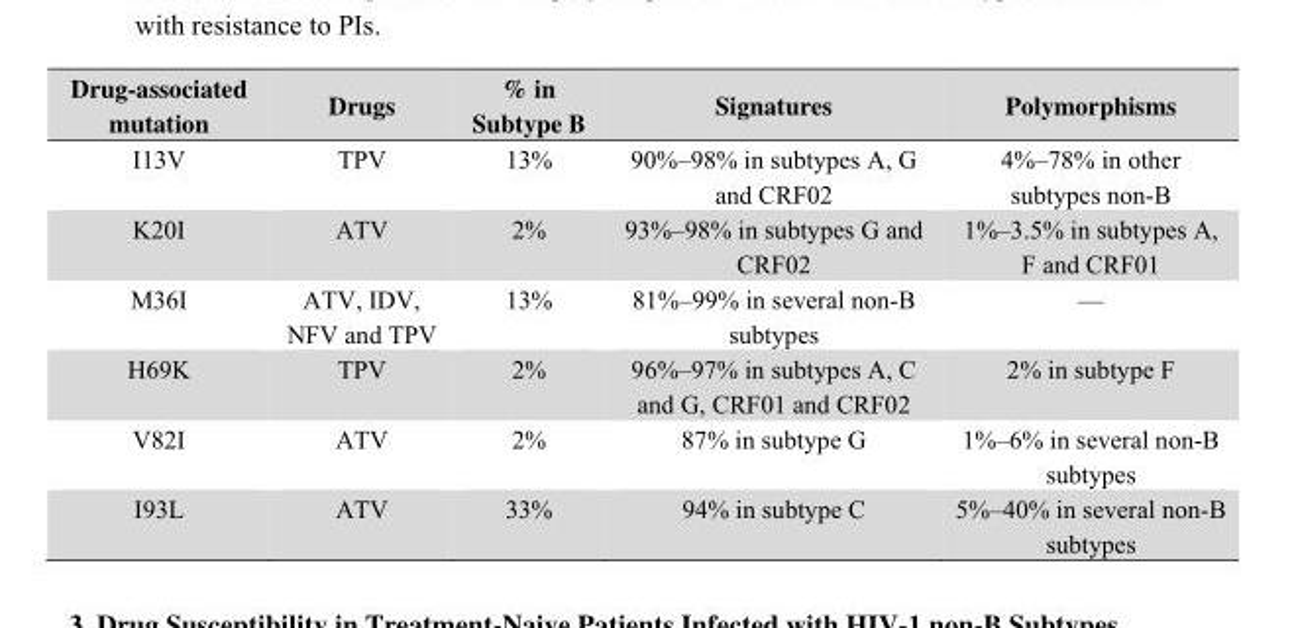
<table><thead><tr><td>Drug-associated mutation</td><td>Drugs</td><td>% in Subtype B</td><td>Signatures</td><td>Polymorphisms</td></tr></thead><tbody><tr><td>I13V</td><td>TPV</td><td>13%</td><td>90%–98% in subtypes A, G and CRF02</td><td>4%–78% in other subtypes non-B</td></tr><tr><td>K20I</td><td>ATV</td><td>2%</td><td>93%–98% in subtypes G and CRF02</td><td>1%–3.5% in subtypes A, F and CRF01</td></tr><tr><td>M36I</td><td>ATV, IDV, NFV and TPV</td><td>13%</td><td>81%–99% in several non-B subtypes</td><td>—</td></tr><tr><td>H69K</td><td>TPV</td><td>2%</td><td>96%–97% in subtypes A, C and G, CRF01 and CRF02</td><td>2% in subtype F</td></tr><tr><td>V82I</td><td>ATV</td><td>2%</td><td>87% in subtype G</td><td>1%–6% in several non-B subtypes</td></tr><tr><td>I93L</td><td>ATV</td><td>33%</td><td>94% in subtype C</td><td>5%–40% in several non-B subtypes</td></tr></tbody></table>